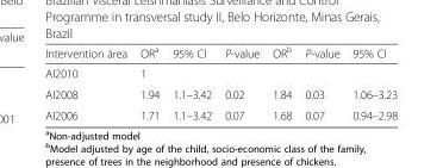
<table><thead><tr><td>Intervention área</td><td>OR<sup>a</sup></td><td>95% CI</td><td>P-value</td><td>OR<sup>b</sup></td><td>P-value</td><td>95% CI</td></tr></thead><tbody><tr><td>AI2010</td><td>1</td><td></td><td></td><td></td><td></td><td></td></tr><tr><td>AI2008</td><td>1.94</td><td>1.1–3.42</td><td>0.02</td><td>1.84</td><td>0.03</td><td>1.06–3.23</td></tr><tr><td>AI2006</td><td>1.71</td><td>1.1–3.42</td><td>0.07</td><td>1.68</td><td>0.07</td><td>0.94–2.98</td></tr></tbody></table>